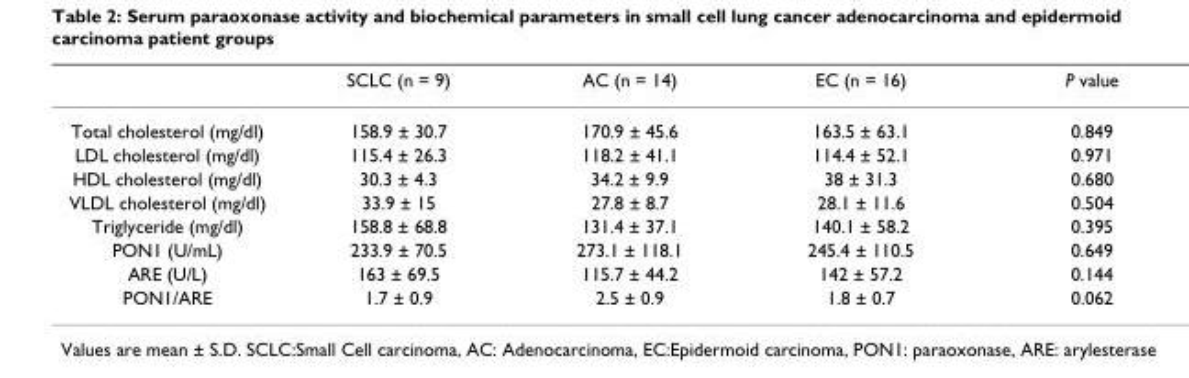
<table><thead><tr><td></td><td>SCLC (n = 9)</td><td>AC (n = 14)</td><td>EC (n = 16)</td><td>P value</td></tr></thead><tbody><tr><td>Total cholesterol (mg/dl)</td><td>158.9 ± 30.7</td><td>170.9 ± 45.6</td><td>163.5 ± 63.1</td><td>0.849</td></tr><tr><td>LDL cholesterol (mg/dl)</td><td>115.4 ± 26.3</td><td>118.2 ± 41.1</td><td>114.4 ± 52.1</td><td>0.971</td></tr><tr><td>HDL cholesterol (mg/dl)</td><td>30.3 ± 4.3</td><td>34.2 ± 9.9</td><td>38 ± 31.3</td><td>0.680</td></tr><tr><td>VLDL cholesterol (mg/dl)</td><td>33.9 ± 15</td><td>27.8 ± 8.7</td><td>28.1 ± 11.6</td><td>0.504</td></tr><tr><td>Triglyceride (mg/dl)</td><td>158.8 ± 68.8</td><td>131.4 ± 37.1</td><td>140.1 ± 58.2</td><td>0.395</td></tr><tr><td>PON1 (U/mL)</td><td>233.9 ± 70.5</td><td>273.1 ± 118.1</td><td>245.4 ± 110.5</td><td>0.649</td></tr><tr><td>ARE (U/L)</td><td>163 ± 69.5</td><td>115.7 ± 44.2</td><td>142 ± 57.2</td><td>0.144</td></tr><tr><td>PON1/ARE</td><td>1.7 ± 0.9</td><td>2.5 ± 0.9</td><td>1.8 ± 0.7</td><td>0.062</td></tr></tbody></table>